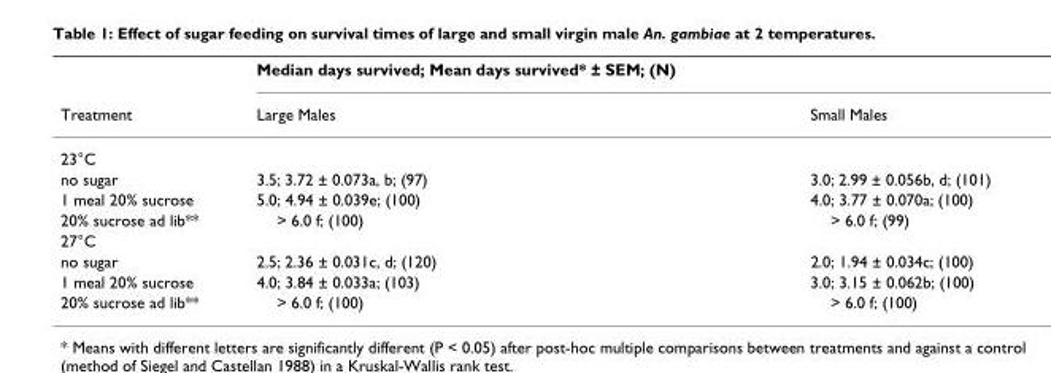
<table><thead><tr><td rowspan="2">Treatment</td><td rowspan="2">Median days survived; Mean days survived* ± SEM; (N) Large Males</td><td rowspan="2">Small Males</td></tr><tr></tr></thead><tbody><tr><td colspan="3">23°C</td></tr><tr><td>no sugar</td><td>3.5; 3.72 ± 0.073a, b; (97)</td><td>3.0; 2.99 ± 0.056b, d; (101)</td></tr><tr><td>1 meal 20% sucrose</td><td>5.0; 4.94 ± 0.039e; (100)</td><td>4.0; 3.77 ± 0.070a; (100)</td></tr><tr><td>20% sucrose ad lib**</td><td>&gt; 6.0 f; (100)</td><td>&gt; 6.0 f; (99)</td></tr><tr><td colspan="3">27°C</td></tr><tr><td>no sugar</td><td>2.5; 2.36 ± 0.031c, d; (120)</td><td>2.0; 1.94 ± 0.034c; (100)</td></tr><tr><td>1 meal 20% sucrose</td><td>4.0; 3.84 ± 0.033a; (103)</td><td>3.0; 3.15 ± 0.062b; (100)</td></tr><tr><td>20% sucrose ad lib**</td><td>&gt; 6.0 f; (100)</td><td>&gt; 6.0 f; (100)</td></tr></tbody></table>